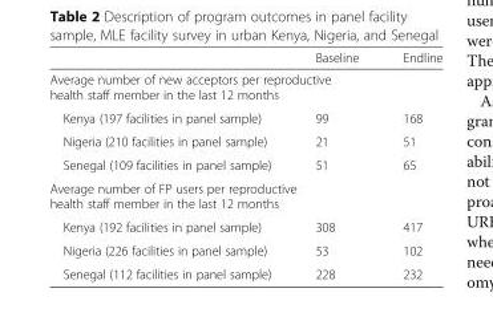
<table><thead><tr><td></td><td>Baseline</td><td>Endline</td></tr></thead><tbody><tr><td colspan="3">Average number of new acceptors per reproductive health staff member in the last 12 months</td></tr><tr><td>Kenya (197 facilities in panel sample)</td><td>99</td><td>168</td></tr><tr><td>Nigeria (210 facilities in panel sample)</td><td>21</td><td>51</td></tr><tr><td>Senegal (109 facilities in panel sample)</td><td>51</td><td>65</td></tr><tr><td colspan="3">Average number of FP users per reproductive health staff member in the last 12 months</td></tr><tr><td>Kenya (192 facilities in panel sample)</td><td>308</td><td>417</td></tr><tr><td>Nigeria (226 facilities in panel sample)</td><td>53</td><td>102</td></tr><tr><td>Senegal (112 facilities in panel sample)</td><td>228</td><td>232</td></tr></tbody></table>